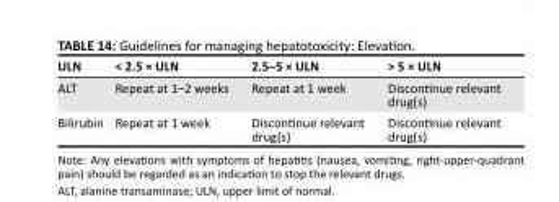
<table><thead><tr><td>ULN</td><td>&lt; 2.5 × ULN</td><td>2.5–5 × ULN</td><td>&gt; 5 × ULN</td></tr></thead><tbody><tr><td>ALT</td><td>Repeat at 1–2 weeks</td><td>Repeat at 1 week</td><td>Discontinue relevant drug(s)</td></tr><tr><td>Bilirubin</td><td>Repeat at 1 week</td><td>Discontinue relevant drug(s)</td><td>Discontinue relevant drug(s)</td></tr></tbody></table>